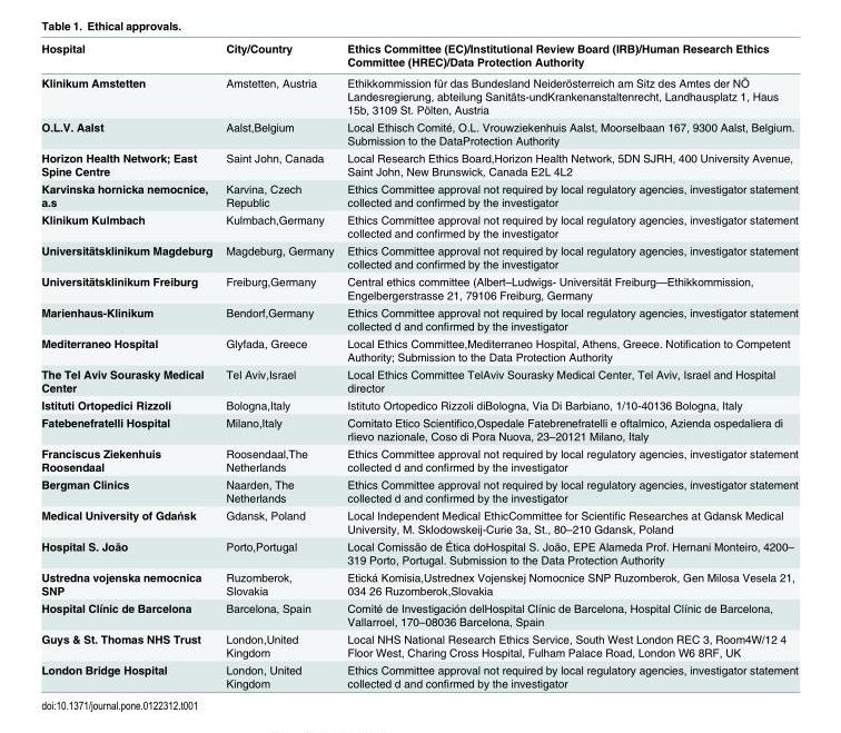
<table><thead><tr><td>Hospital</td><td>City/Country</td><td>Ethics Committee (EC)/Institutional Review Board (IRB)/Human Research Ethics Committee (HREC)/Data Protection Authority</td></tr></thead><tbody><tr><td>Klinikum Amstetten</td><td>Amstetten, Austria</td><td>Ethikkommission für das Bundesland Neiderösterreich am Sitz des Amtes der NÖ Landesregierung, abteilung Sanitäts-undKrankenanstaltenrecht, Landhausplatz 1, Haus 15b, 3109 St. Pölten, Austria</td></tr><tr><td>O.L.V. Aalst</td><td>Aalst,Belgium</td><td>Local Ethisch Comité, O.L. Vrouwziekenhuis Aalst, Moorselbaan 167, 9300 Aalst, Belgium. Submission to the DataProtection Authority</td></tr><tr><td>Horizon Health Network; East Spine Centre</td><td>Saint John, Canada</td><td>Local Research Ethics Board,Horizon Health Network, 5DN SJRH, 400 University Avenue, Saint John, New Brunswick, Canada E2L 4L2</td></tr><tr><td>Karvinska hornicka nemocnice, a.s</td><td>Karvina, Czech Republic</td><td>Ethics Committee approval not required by local regulatory agencies, investigator statement collected and confirmed by the investigator</td></tr><tr><td>Klinikum Kulmbach</td><td>Kulmbach,Germany</td><td>Ethics Committee approval not required by local regulatory agencies, investigator statement collected and confirmed by the investigator</td></tr><tr><td>Universitätsklinikum Magdeburg</td><td>Magdeburg, Germany</td><td>Ethics Committee approval not required by local regulatory agencies, investigator statement collected and confirmed by the investigator</td></tr><tr><td>Universitätsklinikum Freiburg</td><td>Freiburg,Germany</td><td>Central ethics committee (Albert–Ludwigs- Universität Freiburg—Ethikkommission, Engelbergerstrasse 21, 79106 Freiburg, Germany</td></tr><tr><td>Marienhaus-Klinikum</td><td>Bendorf,Germany</td><td>Ethics Committee approval not required by local regulatory agencies, investigator statement collected d and confirmed by the investigator</td></tr><tr><td>Mediterraneo Hospital</td><td>Glyfada, Greece</td><td>Local Ethics Committee,Mediterraneo Hospital, Athens, Greece. Notification to Competent Authority; Submission to the Data Protection Authority</td></tr><tr><td>The Tel Aviv Sourasky Medical Center</td><td>Tel Aviv,Israel</td><td>Local Ethics Committee TelAviv Sourasky Medical Center, Tel Aviv, Israel and Hospital director</td></tr><tr><td>Istituti Ortopedici Rizzoli</td><td>Bologna,Italy</td><td>Istituto Ortopedico Rizzoli diBologna, Via Di Barbiano, 1/10-40136 Bologna, Italy</td></tr><tr><td>Fatebenefratelli Hospital</td><td>Milano,Italy</td><td>Comitato Etico Scientifico,Ospedale Fatebrenefratelli e oftalmico, Azienda ospedaliera di rlievo nazionale, Coso di Pora Nuova, 23–20121 Milano, Italy</td></tr><tr><td>Franciscus Ziekenhuis Roosendaal</td><td>Roosendaal,The Netherlands</td><td>Ethics Committee approval not required by local regulatory agencies, investigator statement collected d and confirmed by the investigator</td></tr><tr><td>Bergman Clinics</td><td>Naarden, The Netherlands</td><td>Ethics Committee approval not required by local regulatory agencies, investigator statement collected d and confirmed by the investigator</td></tr><tr><td>Medical University of Gdańsk</td><td>Gdansk, Poland</td><td>Local Independent Medical EthicCommittee for Scientific Researches at Gdansk Medical University, M. Sklodowskeij-Curie 3a, St., 80–210 Gdansk, Poland</td></tr><tr><td>Hospital S. João</td><td>Porto,Portugal</td><td>Local Comissão de Ética doHospital S. João, EPE Alameda Prof. Hernani Monteiro, 4200– 319 Porto, Portugal. Submission to the Data Protection Authority</td></tr><tr><td>Ustredna vojenska nemocnica SNP</td><td>Ruzomberok, Slovakia</td><td>Etická Komisia,Ustrednex Vojenskej Nomocnice SNP Ruzomberok, Gen Milosa Vesela 21, 034 26 Ruzomberok,Slovakia</td></tr><tr><td>Hospital Clínic de Barcelona</td><td>Barcelona, Spain</td><td>Comité de Investigación delHospital Clínic de Barcelona, Hospital Clínic de Barcelona, Vallarroel, 170–08036 Barcelona, Spain</td></tr><tr><td>Guys &amp; St. Thomas NHS Trust</td><td>London,United Kingdom</td><td>Local NHS National Research Ethics Service, South West London REC 3, Room4W/12 4 Floor West, Charing Cross Hospital, Fulham Palace Road, London W6 8RF, UK</td></tr><tr><td>London Bridge Hospital</td><td>London, United Kingdom</td><td>Ethics Committee approval not required by local regulatory agencies, investigator statement collected d and confirmed by the investigator</td></tr></tbody></table>